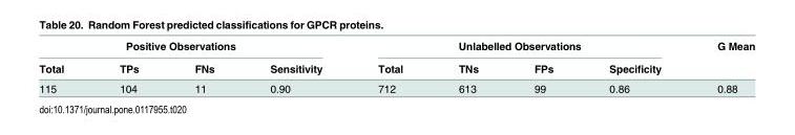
<table><thead><tr><td colspan="4">Positive Observations</td><td colspan="4">Unlabelled Observations</td><td rowspan="2">G Mean</td></tr><tr><td>Total</td><td>TPs</td><td>FNs</td><td>Sensitivity</td><td>Total</td><td>TNs</td><td>FPs</td><td>Specificity</td></tr></thead><tbody><tr><td>115</td><td>104</td><td>11</td><td>0.90</td><td>712</td><td>613</td><td>99</td><td>0.86</td><td>0.88</td></tr></tbody></table>